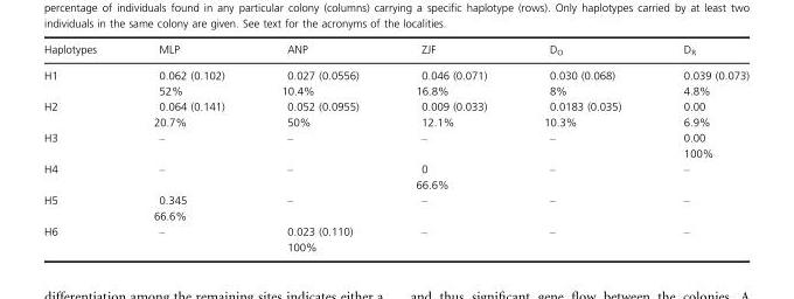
<table><thead><tr><td>Haplotypes</td><td>MLP</td><td>ANP</td><td>ZJF</td><td>D<sub>O</sub></td><td>D<sub>R</sub></td></tr></thead><tbody><tr><td>H1</td><td>0.062 (0.102) 52%</td><td>0.027 (0.0556) 10.4%</td><td>0.046 (0.071) 16.8%</td><td>0.030 (0.068) 8%</td><td>0.039 (0.073) 4.8%</td></tr><tr><td>H2</td><td>0.064 (0.141) 20.7%</td><td>0.052 (0.0955) 50%</td><td>0.009 (0.033) 12.1%</td><td>0.0183 (0.035) 10.3%</td><td>0.00 6.9%</td></tr><tr><td>H3</td><td>–</td><td>–</td><td>–</td><td>–</td><td>0.00 100%</td></tr><tr><td>H4</td><td>–</td><td>–</td><td>0 66.6%</td><td>–</td><td>–</td></tr><tr><td>H5</td><td>0.345 66.6%</td><td>–</td><td>–</td><td>–</td><td>–</td></tr><tr><td>H6</td><td>–</td><td>0.023 (0.110) 100%</td><td>–</td><td>–</td><td>–</td></tr></tbody></table>